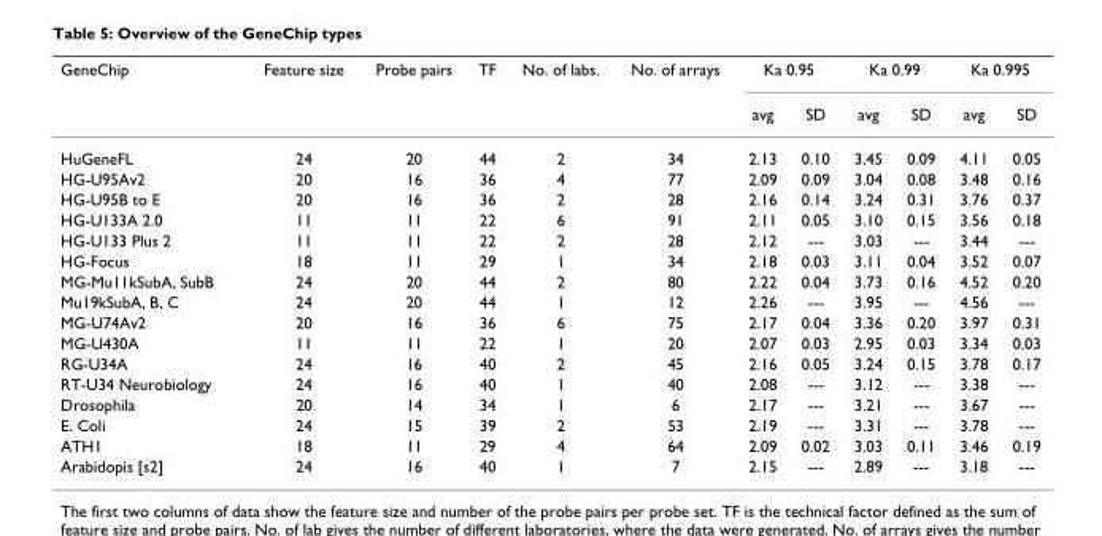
<table><thead><tr><td rowspan="2">GeneChip</td><td rowspan="2">Feature size</td><td rowspan="2">Probe pairs</td><td rowspan="2">TF</td><td rowspan="2">No. of labs.</td><td rowspan="2">No. of arrays</td><td colspan="2">Ka 0.95</td><td colspan="2">Ka 0.99</td><td colspan="2">Ka 0.995</td></tr><tr><td>avg</td><td>SD</td><td>avg</td><td>SD</td><td>avg</td><td>SD</td></tr></thead><tbody><tr><td>HuGeneFL</td><td>24</td><td>20</td><td>44</td><td>2</td><td>34</td><td>2.13</td><td>0.10</td><td>3.45</td><td>0.09</td><td>4.11</td><td>0.05</td></tr><tr><td>HG-U95Av2</td><td>20</td><td>16</td><td>36</td><td>4</td><td>77</td><td>2.09</td><td>0.09</td><td>3.04</td><td>0.08</td><td>3.48</td><td>0.16</td></tr><tr><td>HG-U95B to E</td><td>20</td><td>16</td><td>36</td><td>2</td><td>28</td><td>2.16</td><td>0.14</td><td>3.24</td><td>0.31</td><td>3.76</td><td>0.37</td></tr><tr><td>HG-U133A 2.0</td><td>11</td><td>11</td><td>22</td><td>6</td><td>91</td><td>2.11</td><td>0.05</td><td>3.10</td><td>0.15</td><td>3.56</td><td>0.18</td></tr><tr><td>HG-U133 Plus 2</td><td>11</td><td>11</td><td>22</td><td>2</td><td>28</td><td>2.12</td><td>---</td><td>3.03</td><td>---</td><td>3.44</td><td>---</td></tr><tr><td>HG-Focus</td><td>18</td><td>11</td><td>29</td><td>1</td><td>34</td><td>2.18</td><td>0.03</td><td>3.11</td><td>0.04</td><td>3.52</td><td>0.07</td></tr><tr><td>MG-Mu11kSubA, SubB</td><td>24</td><td>20</td><td>44</td><td>2</td><td>80</td><td>2.22</td><td>0.04</td><td>3.73</td><td>0.16</td><td>4.52</td><td>0.20</td></tr><tr><td>Mu19kSubA, B, C</td><td>24</td><td>20</td><td>44</td><td>1</td><td>12</td><td>2.26</td><td>---</td><td>3.95</td><td>---</td><td>4.56</td><td>---</td></tr><tr><td>MG-U74Av2</td><td>20</td><td>16</td><td>36</td><td>6</td><td>75</td><td>2.17</td><td>0.04</td><td>3.36</td><td>0.20</td><td>3.97</td><td>0.31</td></tr><tr><td>MG-U430A</td><td>11</td><td>11</td><td>22</td><td>1</td><td>20</td><td>2.07</td><td>0.03</td><td>2.95</td><td>0.03</td><td>3.34</td><td>0.03</td></tr><tr><td>RG-U34A</td><td>24</td><td>16</td><td>40</td><td>2</td><td>45</td><td>2.16</td><td>0.05</td><td>3.24</td><td>0.15</td><td>3.78</td><td>0.17</td></tr><tr><td>RT-U34 Neurobiology</td><td>24</td><td>16</td><td>40</td><td>1</td><td>40</td><td>2.08</td><td>---</td><td>3.12</td><td>---</td><td>3.38</td><td>---</td></tr><tr><td>Drosophila</td><td>20</td><td>14</td><td>34</td><td>1</td><td>6</td><td>2.17</td><td>---</td><td>3.21</td><td>---</td><td>3.67</td><td>---</td></tr><tr><td>E. Coli</td><td>24</td><td>15</td><td>39</td><td>2</td><td>53</td><td>2.19</td><td>---</td><td>3.31</td><td>---</td><td>3.78</td><td>---</td></tr><tr><td>ATH1</td><td>18</td><td>11</td><td>29</td><td>4</td><td>64</td><td>2.09</td><td>0.02</td><td>3.03</td><td>0.11</td><td>3.46</td><td>0.19</td></tr><tr><td>Arabidopis [s2]</td><td>24</td><td>16</td><td>40</td><td>1</td><td>7</td><td>2.15</td><td>---</td><td>2.89</td><td>---</td><td>3.18</td><td>---</td></tr></tbody></table>